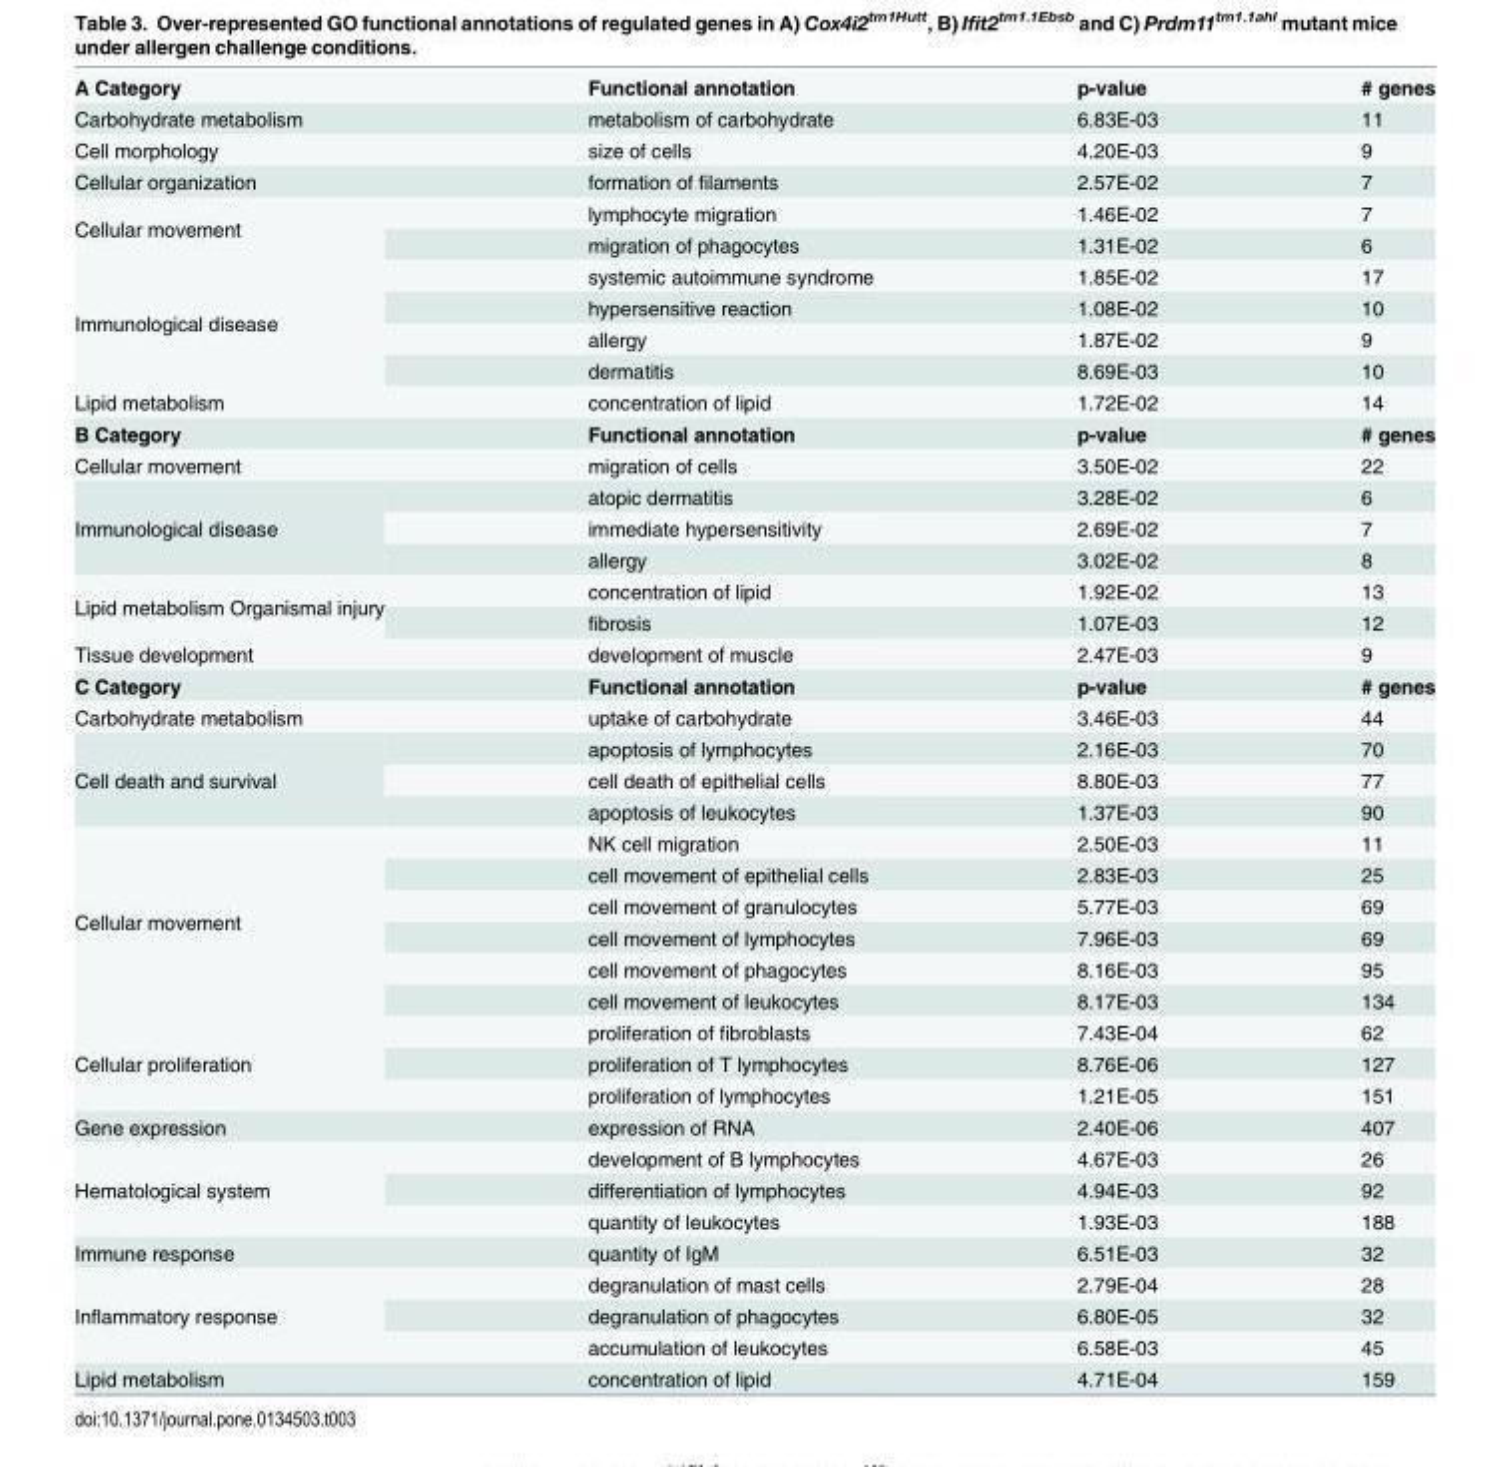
<table><tbody><tr><td>A Category</td><td>Functional annotation</td><td>p-value</td><td># genes</td></tr><tr><td>Carbohydrate metabolism</td><td>metabolism of carbohydrate</td><td>6.83E-03</td><td>11</td></tr><tr><td>Cell morphology</td><td>size of cells</td><td>4.20E-03</td><td>9</td></tr><tr><td>Cellular organization</td><td>formation of filaments</td><td>2.57E-02</td><td>7</td></tr><tr><td rowspan="2">Cellular movement</td><td>lymphocyte migration</td><td>1.46E-02</td><td>7</td></tr><tr><td>migration of phagocytes</td><td>1.31E-02</td><td>6</td></tr><tr><td rowspan="4">Immunological disease</td><td>systemic autoimmune syndrome</td><td>1.85E-02</td><td>17</td></tr><tr><td>hypersensitive reaction</td><td>1.08E-02</td><td>10</td></tr><tr><td>allergy</td><td>1.87E-02</td><td>9</td></tr><tr><td>dermatitis</td><td>8.69E-03</td><td>10</td></tr><tr><td>Lipid metabolism</td><td>concentration of lipid</td><td>1.72E-02</td><td>14</td></tr><tr><td>B Category</td><td>Functional annotation</td><td>p-value</td><td># genes</td></tr><tr><td>Cellular movement</td><td>migration of cells</td><td>3.50E-02</td><td>22</td></tr><tr><td rowspan="3">Immunological disease</td><td>atopic dermatitis</td><td>3.28E-02</td><td>6</td></tr><tr><td>immediate hypersensitivity</td><td>2.69E-02</td><td>7</td></tr><tr><td>allergy</td><td>3.02E-02</td><td>8</td></tr><tr><td rowspan="2">Lipid metabolism Organismal injury</td><td>concentration of lipid</td><td>1.92E-02</td><td>13</td></tr><tr><td>fibrosis</td><td>1.07E-03</td><td>12</td></tr><tr><td>Tissue development</td><td>development of muscle</td><td>2.47E-03</td><td>9</td></tr><tr><td>C Category</td><td>Functional annotation</td><td>p-value</td><td># genes</td></tr><tr><td>Carbohydrate metabolism</td><td>uptake of carbohydrate</td><td>3.46E-03</td><td>44</td></tr><tr><td rowspan="3">Cell death and survival</td><td>apoptosis of lymphocytes</td><td>2.16E-03</td><td>70</td></tr><tr><td>cell death of epithelial cells</td><td>8.80E-03</td><td>77</td></tr><tr><td>apoptosis of leukocytes</td><td>1.37E-03</td><td>90</td></tr><tr><td rowspan="6">Cellular movement</td><td>NK cell migration</td><td>2.50E-03</td><td>11</td></tr><tr><td>cell movement of epithelial cells</td><td>2.83E-03</td><td>25</td></tr><tr><td>cell movement of granulocytes</td><td>5.77E-03</td><td>69</td></tr><tr><td>cell movement of lymphocytes</td><td>7.96E-03</td><td>69</td></tr><tr><td>cell movement of phagocytes</td><td>8.16E-03</td><td>95</td></tr><tr><td>cell movement of leukocytes</td><td>8.17E-03</td><td>134</td></tr><tr><td rowspan="3">Cellular proliferation</td><td>proliferation of fibroblasts</td><td>7.43E-04</td><td>62</td></tr><tr><td>proliferation of T lymphocytes</td><td>8.76E-06</td><td>127</td></tr><tr><td>proliferation of lymphocytes</td><td>1.21E-05</td><td>151</td></tr><tr><td>Gene expression</td><td>expression of RNA</td><td>2.40E-06</td><td>407</td></tr><tr><td rowspan="3">Hematological system</td><td>development of B lymphocytes</td><td>4.67E-03</td><td>26</td></tr><tr><td>differentiation of lymphocytes</td><td>4.94E-03</td><td>92</td></tr><tr><td>quantity of leukocytes</td><td>1.93E-03</td><td>188</td></tr><tr><td>Immune response</td><td>quantity of IgM</td><td>6.51E-03</td><td>32</td></tr><tr><td rowspan="3">Inflammatory response</td><td>degranulation of mast cells</td><td>2.79E-04</td><td>28</td></tr><tr><td>degranulation of phagocytes</td><td>6.80E-05</td><td>32</td></tr><tr><td>accumulation of leukocytes</td><td>6.58E-03</td><td>45</td></tr><tr><td>Lipid metabolism</td><td>concentration of lipid</td><td>4.71E-04</td><td>159</td></tr></tbody></table>